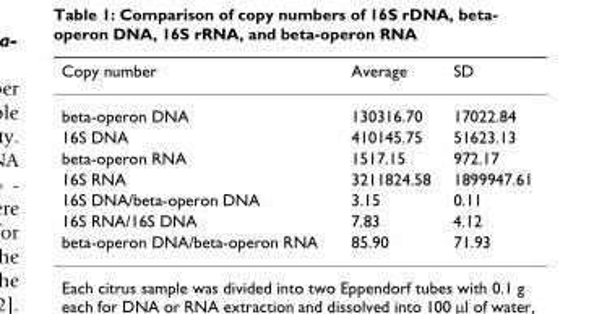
<table><thead><tr><td>Copy number</td><td>Average</td><td>SD</td></tr></thead><tbody><tr><td>beta-operon DNA</td><td>130316.70</td><td>17022.84</td></tr><tr><td>16S DNA</td><td>410145.75</td><td>51623.13</td></tr><tr><td>beta-operon RNA</td><td>1517.15</td><td>972.17</td></tr><tr><td>16S RNA</td><td>3211824.58</td><td>1899947.61</td></tr><tr><td>16S DNA/beta-operon DNA</td><td>3.15</td><td>0.11</td></tr><tr><td>16S RNA/16S DNA</td><td>7.83</td><td>4.12</td></tr><tr><td>beta-operon DNA/beta-operon RNA</td><td>85.90</td><td>71.93</td></tr></tbody></table>